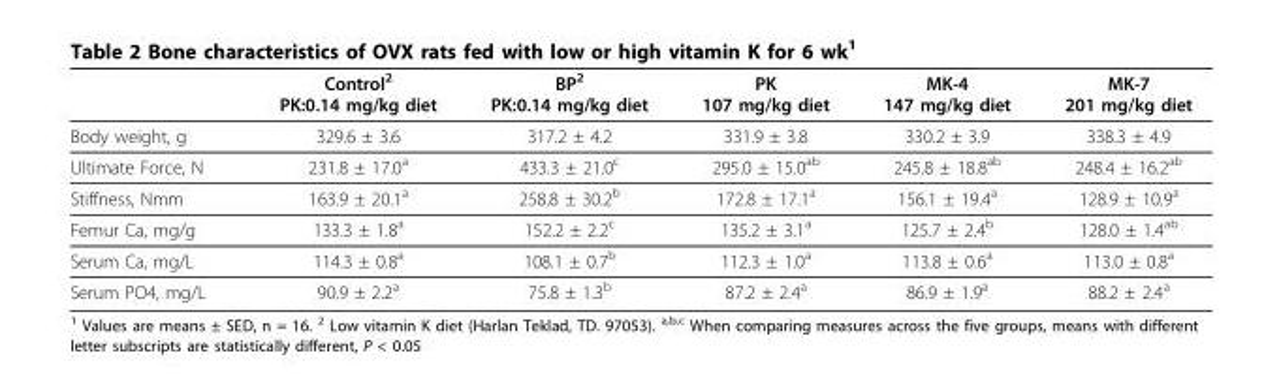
<table><thead><tr><td></td><td>Control<sup>2</sup> PK:0.14 mg/kg diet</td><td>BP<sup>2</sup> PK:0.14 mg/kg diet</td><td>PK 107 mg/kg diet</td><td>MK-4 147 mg/kg diet</td><td>MK-7 201 mg/kg diet</td></tr></thead><tbody><tr><td>Body weight, g</td><td>329.6 ± 3.6</td><td>317.2 ± 4.2</td><td>331.9 ± 3.8</td><td>330.2 ± 3.9</td><td>338.3 ± 4.9</td></tr><tr><td>Ultimate Force, N</td><td>231.8 ± 17.0<sup>a</sup></td><td>433.3 ± 21.0<sup>c</sup></td><td>295.0 ± 15.0<sup>ab</sup></td><td>245.8 ± 18.8<sup>ab</sup></td><td>248.4 ± 16.2<sup>ab</sup></td></tr><tr><td>Stiffness, Nmm</td><td>163.9 ± 20.1<sup>a</sup></td><td>258.8 ± 30.2<sup>b</sup></td><td>172.8 ± 17.1<sup>a</sup></td><td>156.1 ± 19.4<sup>a</sup></td><td>128.9 ± 10.9<sup>a</sup></td></tr><tr><td>Femur Ca, mg/g</td><td>133.3 ± 1.8<sup>a</sup></td><td>152.2 ± 2.2<sup>c</sup></td><td>135.2 ± 3.1<sup>a</sup></td><td>125.7 ± 2.4<sup>b</sup></td><td>128.0 ± 1.4<sup>ab</sup></td></tr><tr><td>Serum Ca, mg/L</td><td>114.3 ± 0.8<sup>a</sup></td><td>108.1 ± 0.7<sup>b</sup></td><td>112.3 ± 1.0<sup>a</sup></td><td>113.8 ± 0.6<sup>a</sup></td><td>113.0 ± 0.8<sup>a</sup></td></tr><tr><td>Serum PO4, mg/L</td><td>90.9 ± 2.2<sup>a</sup></td><td>75.8 ± 1.3<sup>b</sup></td><td>87.2 ± 2.4<sup>a</sup></td><td>86.9 ± 1.9<sup>a</sup></td><td>88.2 ± 2.4<sup>a</sup></td></tr></tbody></table>